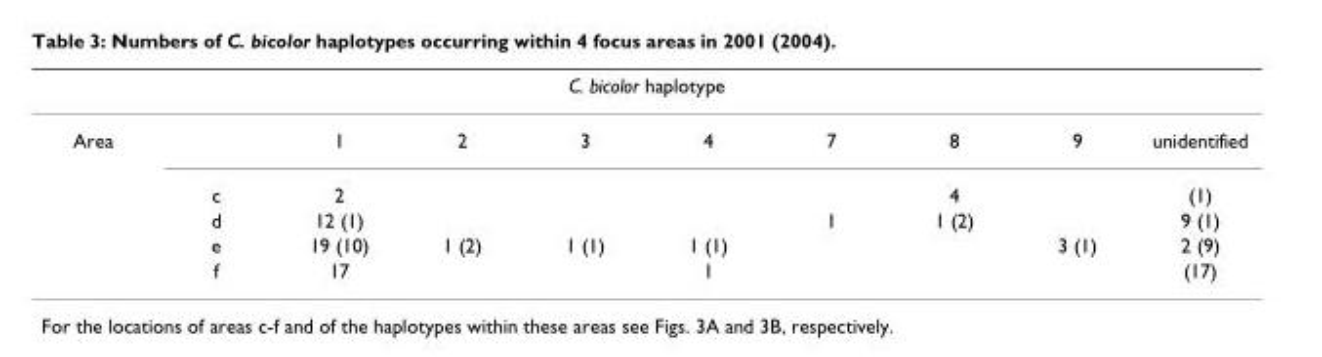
<table><thead><tr><td colspan="10">C. bicolor haplotype</td></tr><tr><td>Area</td><td></td><td>1</td><td>2</td><td>3</td><td>4</td><td>7</td><td>8</td><td>9</td><td>unidentified</td></tr></thead><tbody><tr><td></td><td>c</td><td>2</td><td></td><td></td><td></td><td></td><td>4</td><td></td><td>(1)</td></tr><tr><td></td><td>d</td><td>12 (1)</td><td></td><td></td><td></td><td>1</td><td>1 (2)</td><td></td><td>9 (1)</td></tr><tr><td></td><td>e</td><td>19 (10)</td><td>1 (2)</td><td>1 (1)</td><td>1 (1)</td><td></td><td></td><td>3 (1)</td><td>2 (9)</td></tr><tr><td></td><td>f</td><td>17</td><td></td><td></td><td>1</td><td></td><td></td><td></td><td>(17)</td></tr></tbody></table>